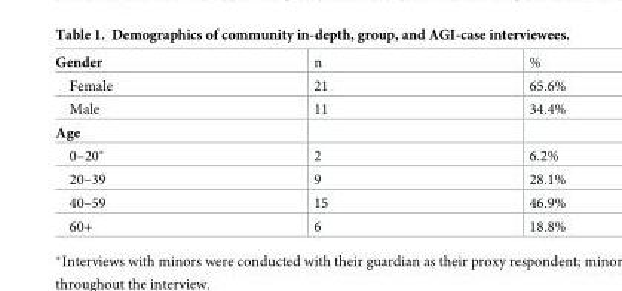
<table><tbody><tr><td>Gender</td><td>n</td><td>%</td></tr><tr><td>Female</td><td>21</td><td>65.6%</td></tr><tr><td>Male</td><td>11</td><td>34.4%</td></tr><tr><td colspan="3">Age</td></tr><tr><td>0–20*</td><td>2</td><td>6.2%</td></tr><tr><td>20–39</td><td>9</td><td>28.1%</td></tr><tr><td>40–59</td><td>15</td><td>46.9%</td></tr><tr><td>60+</td><td>6</td><td>18.8%</td></tr></tbody></table>